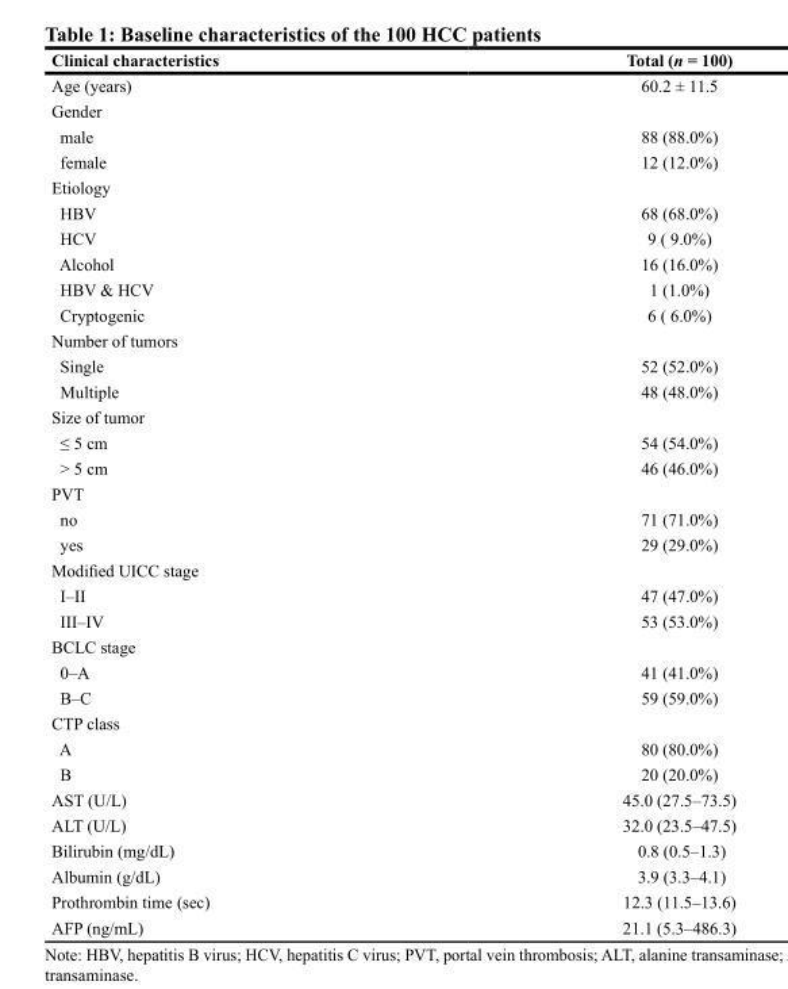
<table><thead><tr><td>Clinical characteristics</td><td>Total (n = 100)</td></tr></thead><tbody><tr><td>Age (years)</td><td>60.2 ± 11.5</td></tr><tr><td colspan="2">Gender</td></tr><tr><td>male</td><td>88 (88.0%)</td></tr><tr><td>female</td><td>12 (12.0%)</td></tr><tr><td colspan="2">Etiology</td></tr><tr><td>HBV</td><td>68 (68.0%)</td></tr><tr><td>HCV</td><td>9 ( 9.0%)</td></tr><tr><td>Alcohol</td><td>16 (16.0%)</td></tr><tr><td>HBV &amp; HCV</td><td>1 (1.0%)</td></tr><tr><td>Cryptogenic</td><td>6 ( 6.0%)</td></tr><tr><td colspan="2">Number of tumors</td></tr><tr><td>Single</td><td>52 (52.0%)</td></tr><tr><td>Multiple</td><td>48 (48.0%)</td></tr><tr><td colspan="2">Size of tumor</td></tr><tr><td>≤ 5 cm</td><td>54 (54.0%)</td></tr><tr><td>&gt; 5 cm</td><td>46 (46.0%)</td></tr><tr><td colspan="2">PVT</td></tr><tr><td>no</td><td>71 (71.0%)</td></tr><tr><td>yes</td><td>29 (29.0%)</td></tr><tr><td colspan="2">Modified UICC stage</td></tr><tr><td>I–II</td><td>47 (47.0%)</td></tr><tr><td>III–IV</td><td>53 (53.0%)</td></tr><tr><td colspan="2">BCLC stage</td></tr><tr><td>0–A</td><td>41 (41.0%)</td></tr><tr><td>B–C</td><td>59 (59.0%)</td></tr><tr><td colspan="2">CTP class</td></tr><tr><td>A</td><td>80 (80.0%)</td></tr><tr><td>B</td><td>20 (20.0%)</td></tr><tr><td>AST (U/L)</td><td>45.0 (27.5–73.5)</td></tr><tr><td>ALT (U/L)</td><td>32.0 (23.5–47.5)</td></tr><tr><td>Bilirubin (mg/dL)</td><td>0.8 (0.5–1.3)</td></tr><tr><td>Albumin (g/dL)</td><td>3.9 (3.3–4.1)</td></tr><tr><td>Prothrombin time (sec)</td><td>12.3 (11.5–13.6)</td></tr><tr><td>AFP (ng/mL)</td><td>21.1 (5.3–486.3)</td></tr></tbody></table>